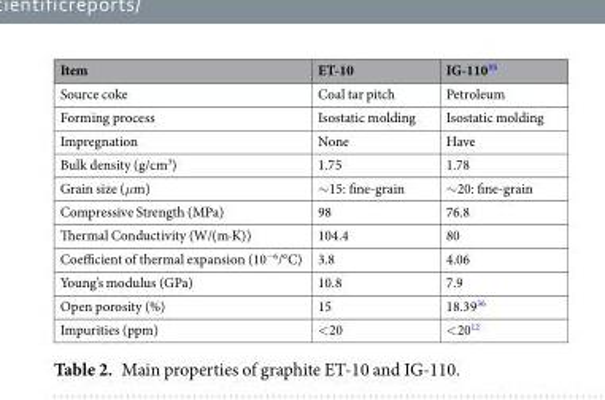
<table><thead><tr><td>Item</td><td>ET-10</td><td>IG-110<sup>35</sup></td></tr></thead><tbody><tr><td>Source coke</td><td>Coal tar pitch</td><td>Petroleum</td></tr><tr><td>Forming process</td><td>Isostatic molding</td><td>Isostatic molding</td></tr><tr><td>Impregnation</td><td>None</td><td>Have</td></tr><tr><td>Bulk density (g/cm<sup>3</sup>)</td><td>1.75</td><td>1.78</td></tr><tr><td>Grain size (μm)</td><td>∼15: fine-grain</td><td>∼20: fine-grain</td></tr><tr><td>Compressive Strength (MPa)</td><td>98</td><td>76.8</td></tr><tr><td>Thermal Conductivity (W/(m·K))</td><td>104.4</td><td>80</td></tr><tr><td>Coefficient of thermal expansion (10<sup>−6</sup>/°C)</td><td>3.8</td><td>4.06</td></tr><tr><td>Young’s modulus (GPa)</td><td>10.8</td><td>7.9</td></tr><tr><td>Open porosity (%)</td><td>15</td><td>18.39<sup>36</sup></td></tr><tr><td>Impurities (ppm)</td><td>&lt;20</td><td>&lt;20<sup>12</sup></td></tr></tbody></table>